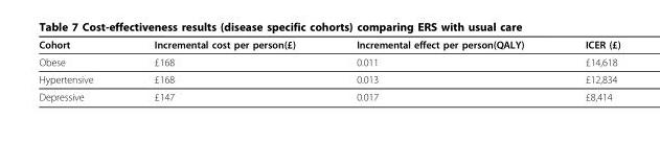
<table><thead><tr><td>Cohort</td><td>Incremental cost per person(£)</td><td>Incremental effect per person(QALY)</td><td>ICER (£)</td></tr></thead><tbody><tr><td>Obese</td><td>£168</td><td>0.011</td><td>£14,618</td></tr><tr><td>Hypertensive</td><td>£168</td><td>0.013</td><td>£12,834</td></tr><tr><td>Depressive</td><td>£147</td><td>0.017</td><td>£8,414</td></tr></tbody></table>